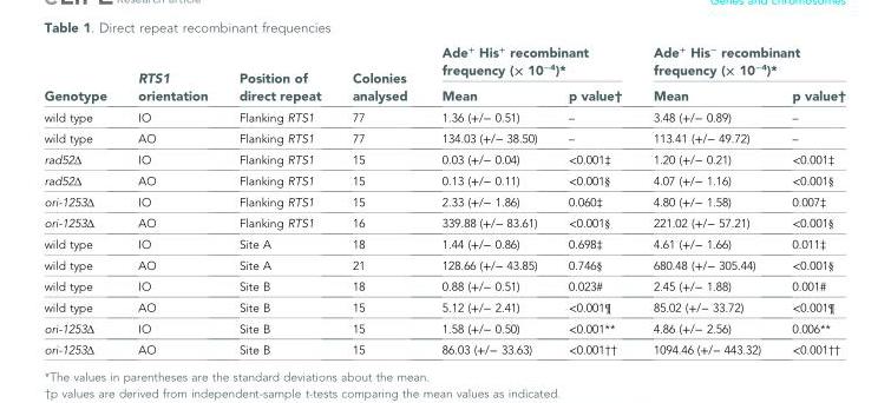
<table><thead><tr><td rowspan="2">Genotype</td><td rowspan="2">RTS1 orientation</td><td rowspan="2">Position of direct repeat</td><td rowspan="2">Colonies analysed</td><td colspan="2">Ade<sup>+</sup> His<sup>+</sup> recombinant frequency (× 10<sup>−4</sup>)*</td><td colspan="2">Ade<sup>+</sup> His<sup>−</sup> recombinant frequency (× 10<sup>−4</sup>)*</td></tr><tr><td>Mean</td><td>p value†</td><td>Mean</td><td>p value†</td></tr></thead><tbody><tr><td>wild type</td><td>IO</td><td>Flanking RTS1</td><td>77</td><td>1.36 (+/− 0.51)</td><td>–</td><td>3.48 (+/− 0.89)</td><td>–</td></tr><tr><td>wild type</td><td>AO</td><td>Flanking RTS1</td><td>77</td><td>134.03 (+/− 38.50)</td><td>–</td><td>113.41 (+/− 49.72)</td><td>–</td></tr><tr><td>rad52Δ</td><td>IO</td><td>Flanking RTS1</td><td>15</td><td>0.03 (+/− 0.04)</td><td>&lt;0.001‡</td><td>1.20 (+/− 0.21)</td><td>&lt;0.001‡</td></tr><tr><td>rad52Δ</td><td>AO</td><td>Flanking RTS1</td><td>15</td><td>0.13 (+/− 0.11)</td><td>&lt;0.001§</td><td>4.07 (+/− 1.16)</td><td>&lt;0.001§</td></tr><tr><td>ori-1253Δ</td><td>IO</td><td>Flanking RTS1</td><td>15</td><td>2.33 (+/− 1.86)</td><td>0.060‡</td><td>4.80 (+/− 1.58)</td><td>0.007‡</td></tr><tr><td>ori-1253Δ</td><td>AO</td><td>Flanking RTS1</td><td>16</td><td>339.88 (+/− 83.61)</td><td>&lt;0.001§</td><td>221.02 (+/− 57.21)</td><td>&lt;0.001§</td></tr><tr><td>wild type</td><td>IO</td><td>Site A</td><td>18</td><td>1.44 (+/− 0.86)</td><td>0.698‡</td><td>4.61 (+/− 1.66)</td><td>0.011‡</td></tr><tr><td>wild type</td><td>AO</td><td>Site A</td><td>21</td><td>128.66 (+/− 43.85)</td><td>0.746§</td><td>680.48 (+/− 305.44)</td><td>&lt;0.001§</td></tr><tr><td>wild type</td><td>IO</td><td>Site B</td><td>18</td><td>0.88 (+/− 0.51)</td><td>0.023#</td><td>2.45 (+/− 1.88)</td><td>0.001#</td></tr><tr><td>wild type</td><td>AO</td><td>Site B</td><td>15</td><td>5.12 (+/− 2.41)</td><td>&lt;0.001¶</td><td>85.02 (+/− 33.72)</td><td>&lt;0.001¶</td></tr><tr><td>ori-1253Δ</td><td>IO</td><td>Site B</td><td>15</td><td>1.58 (+/− 0.50)</td><td>&lt;0.001**</td><td>4.86 (+/− 2.56)</td><td>0.006**</td></tr><tr><td>ori-1253Δ</td><td>AO</td><td>Site B</td><td>15</td><td>86.03 (+/− 33.63)</td><td>&lt;0.001††</td><td>1094.46 (+/− 443.32)</td><td>&lt;0.001††</td></tr></tbody></table>